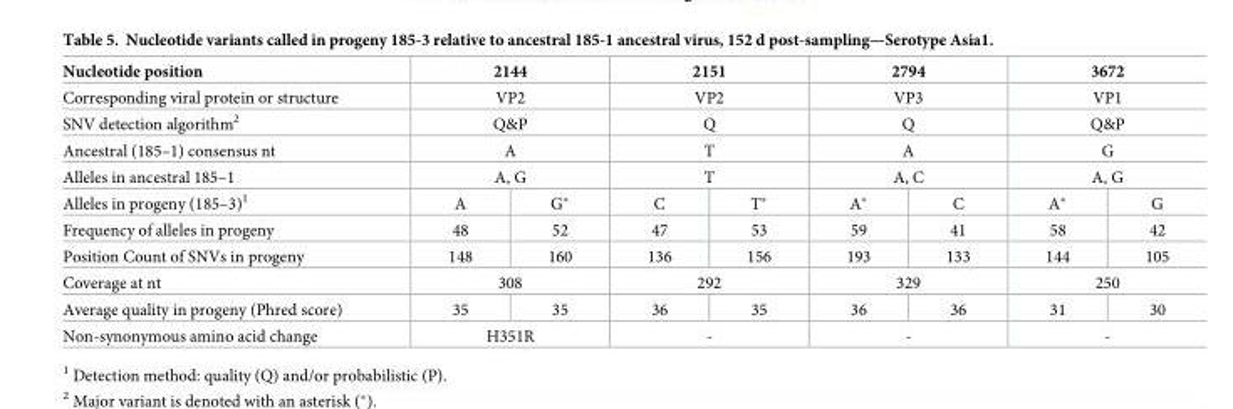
<table><tbody><tr><td>Nucleotide position</td><td colspan="2">2144</td><td colspan="2">2151</td><td colspan="2">2794</td><td colspan="2">3672</td></tr><tr><td>Corresponding viral protein or structure</td><td colspan="2">VP2</td><td colspan="2">VP2</td><td colspan="2">VP3</td><td colspan="2">VP1</td></tr><tr><td>SNV detection algorithm<sup>2</sup></td><td colspan="2">Q&amp;P</td><td colspan="2">Q</td><td colspan="2">Q</td><td colspan="2">Q&amp;P</td></tr><tr><td>Ancestral (185–1) consensus nt</td><td colspan="2">A</td><td colspan="2">T</td><td colspan="2">A</td><td colspan="2">G</td></tr><tr><td>Alleles in ancestral 185–1</td><td colspan="2">A, G</td><td colspan="2">T</td><td colspan="2">A, C</td><td colspan="2">A, G</td></tr><tr><td>Alleles in progeny (185–3)<sup>1</sup></td><td>A</td><td>G*</td><td>C</td><td>T*</td><td>A*</td><td>C</td><td>A*</td><td>G</td></tr><tr><td>Frequency of alleles in progeny</td><td>48</td><td>52</td><td>47</td><td>53</td><td>59</td><td>41</td><td>58</td><td>42</td></tr><tr><td>Position Count of SNVs in progeny</td><td>148</td><td>160</td><td>136</td><td>156</td><td>193</td><td>133</td><td>144</td><td>105</td></tr><tr><td>Coverage at nt</td><td colspan="2">308</td><td colspan="2">292</td><td colspan="2">329</td><td colspan="2">250</td></tr><tr><td>Average quality in progeny (Phred score)</td><td>35</td><td>35</td><td>36</td><td>35</td><td>36</td><td>36</td><td>31</td><td>30</td></tr><tr><td>Non-synonymous amino acid change</td><td colspan="2">H351R</td><td colspan="2">-</td><td colspan="2">-</td><td colspan="2">-</td></tr></tbody></table>